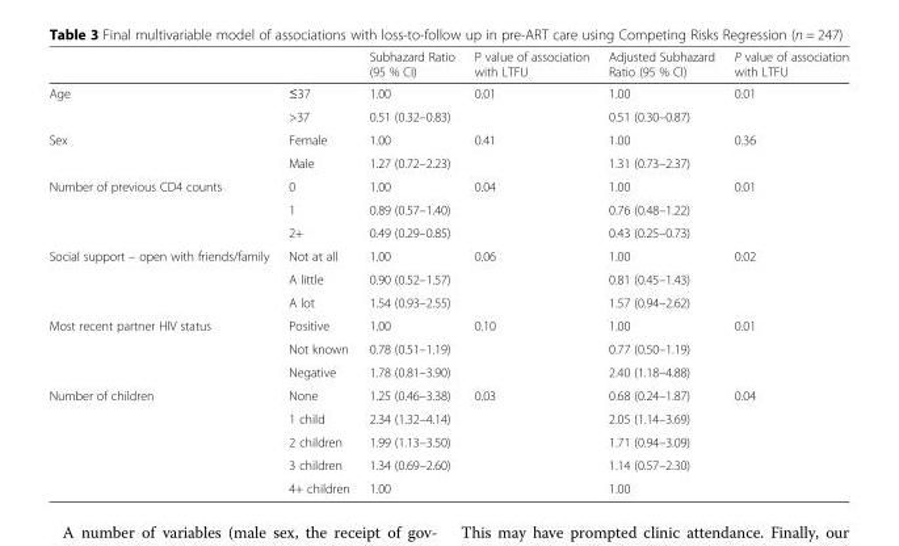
<table><thead><tr><td></td><td></td><td>Subhazard Ratio (95 % CI)</td><td>P value of association with LTFU</td><td>Adjusted Subhazard Ratio (95 % CI)</td><td>P value of association with LTFU</td></tr></thead><tbody><tr><td rowspan="2">Age</td><td>≤37</td><td>1.00</td><td rowspan="2">0.01</td><td>1.00</td><td rowspan="2">0.01</td></tr><tr><td>&gt;37</td><td>0.51 (0.32–0.83)</td><td>0.51 (0.30–0.87)</td></tr><tr><td rowspan="2">Sex</td><td>Female</td><td>1.00</td><td rowspan="2">0.41</td><td>1.00</td><td rowspan="2">0.36</td></tr><tr><td>Male</td><td>1.27 (0.72–2.23)</td><td>1.31 (0.73–2.37)</td></tr><tr><td rowspan="3">Number of previous CD4 counts</td><td>0</td><td>1.00</td><td rowspan="3">0.04</td><td>1.00</td><td rowspan="3">0.01</td></tr><tr><td>1</td><td>0.89 (0.57–1.40)</td><td>0.76 (0.48–1.22)</td></tr><tr><td>2+</td><td>0.49 (0.29–0.85)</td><td>0.43 (0.25–0.73)</td></tr><tr><td rowspan="3">Social support – open with friends/family</td><td>Not at all</td><td>1.00</td><td rowspan="3">0.06</td><td>1.00</td><td rowspan="3">0.02</td></tr><tr><td>A little</td><td>0.90 (0.52–1.57)</td><td>0.81 (0.45–1.43)</td></tr><tr><td>A lot</td><td>1.54 (0.93–2.55)</td><td>1.57 (0.94–2.62)</td></tr><tr><td rowspan="3">Most recent partner HIV status</td><td>Positive</td><td>1.00</td><td rowspan="3">0.10</td><td>1.00</td><td rowspan="3">0.01</td></tr><tr><td>Not known</td><td>0.78 (0.51–1.19)</td><td>0.77 (0.50–1.19)</td></tr><tr><td>Negative</td><td>1.78 (0.81–3.90)</td><td>2.40 (1.18–4.88)</td></tr><tr><td rowspan="5">Number of children</td><td>None</td><td>1.25 (0.46–3.38)</td><td rowspan="5">0.03</td><td>0.68 (0.24–1.87)</td><td rowspan="5">0.04</td></tr><tr><td>1 child</td><td>2.34 (1.32–4.14)</td><td>2.05 (1.14–3.69)</td></tr><tr><td>2 children</td><td>1.99 (1.13–3.50)</td><td>1.71 (0.94–3.09)</td></tr><tr><td>3 children</td><td>1.34 (0.69–2.60)</td><td>1.14 (0.57–2.30)</td></tr><tr><td>4+ children</td><td>1.00</td><td>1.00</td></tr></tbody></table>